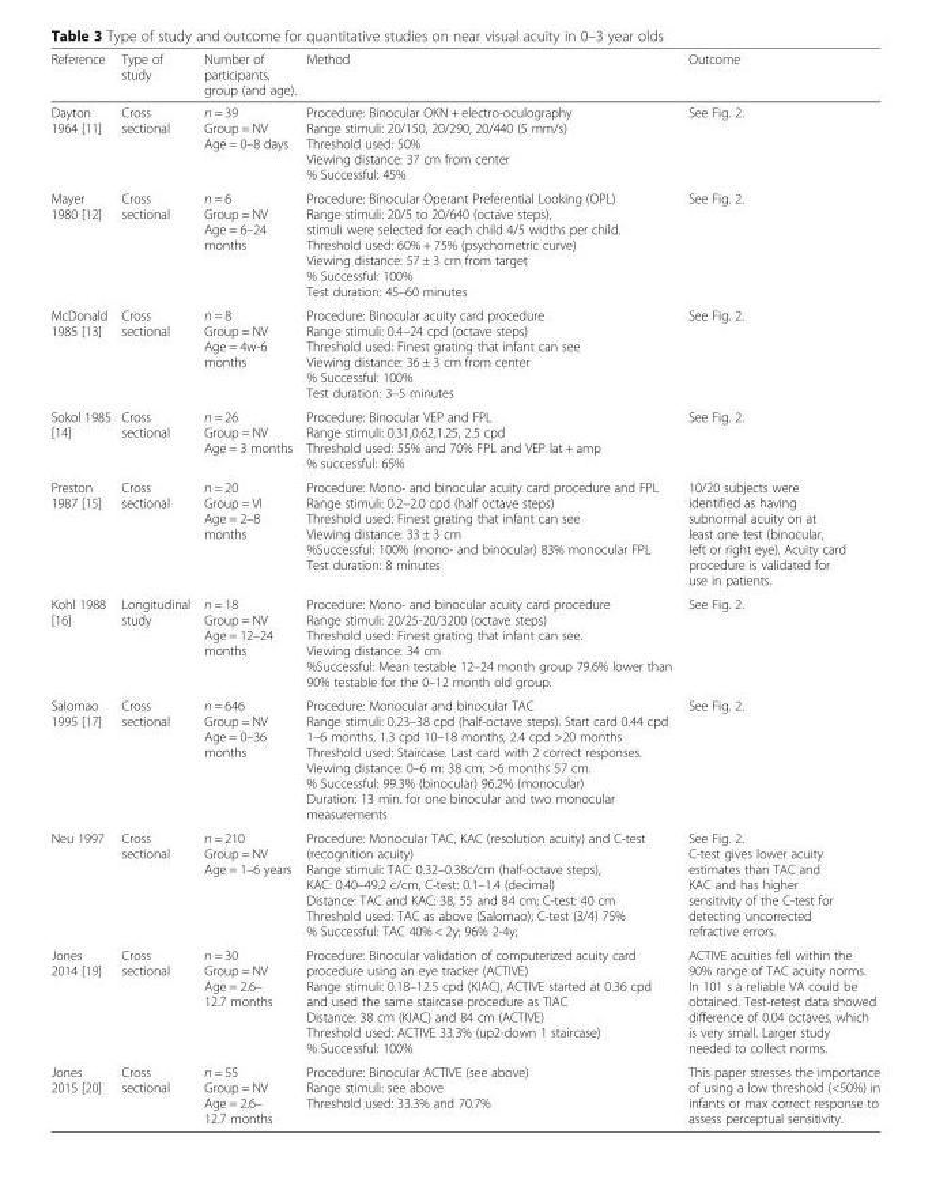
<table><thead><tr><td>Reference</td><td>Type of study</td><td>Number of participants, group (and age).</td><td>Method</td><td>Outcome</td></tr></thead><tbody><tr><td>Dayton 1964 [11]</td><td>Cross sectional</td><td>n = 39 Group = NV Age = 0–8 days</td><td>Procedure: Binocular OKN + electro-oculography Range stimuli: 20/150, 20/290, 20/440 (5 mm/s) Threshold used: 50% Viewing distance: 37 cm from center % Successful: 45%</td><td>See Fig. 2.</td></tr><tr><td>Mayer 1980 [12]</td><td>Cross sectional</td><td>n = 6 Group = NV Age = 6–24 months</td><td>Procedure: Binocular Operant Preferential Looking (OPL) Range stimuli: 20/5 to 20/640 (octave steps), stimuli were selected for each child 4/5 widths per child. Threshold used: 60% + 75% (psychometric curve) Viewing distance: 57 ± 3 cm from target % Successful: 100% Test duration: 45–60 minutes</td><td>See Fig. 2.</td></tr><tr><td>McDonald 1985 [13]</td><td>Cross sectional</td><td>n = 8 Group = NV Age = 4w-6 months</td><td>Procedure: Binocular acuity card procedure Range stimuli: 0.4–24 cpd (octave steps) Threshold used: Finest grating that infant can see Viewing distance: 36 ± 3 cm from center % Successful: 100% Test duration: 3–5 minutes</td><td>See Fig. 2.</td></tr><tr><td>Sokol 1985 [14]</td><td>Cross sectional</td><td>n = 26 Group = NV Age = 3 months</td><td>Procedure: Binocular VEP and FPL Range stimuli: 0.31,0.62,1.25, 2.5 cpd Threshold used: 55% and 70% FPL and VEP lat + amp % successful: 65%</td><td>See Fig. 2.</td></tr><tr><td>Preston 1987 [15]</td><td>Cross sectional</td><td>n = 20 Group = VI Age = 2–8 months</td><td>Procedure: Mono- and binocular acuity card procedure and FPL Range stimuli: 0.2–2.0 cpd (half octave steps) Threshold used: Finest grating that infant can see Viewing distance: 33 ± 3 cm %Successful: 100% (mono- and binocular) 83% monocular FPL Test duration: 8 minutes</td><td>10/20 subjects were identified as having subnormal acuity on at least one test (binocular, left or right eye). Acuity card procedure is validated for use in patients.</td></tr><tr><td>Kohl 1988 [16]</td><td>Longitudinal study</td><td>n = 18 Group = NV Age = 12–24 months</td><td>Procedure: Mono- and binocular acuity card procedure Range stimuli: 20/25-20/3200 (octave steps) Threshold used: Finest grating that infant can see. Viewing distance: 34 cm %Successful: Mean testable 12–24 month group 79.6% lower than 90% testable for the 0–12 month old group.</td><td>See Fig. 2.</td></tr><tr><td>Salomao 1995 [17]</td><td>Cross sectional</td><td>n = 646 Group = NV Age = 0–36 months</td><td>Procedure: Monocular and binocular TAC Range stimuli: 0.23–38 cpd (half-octave steps). Start card 0.44 cpd 1–6 months, 1.3 cpd 10–18 months, 2.4 cpd &gt;20 months Threshold used: Staircase. Last card with 2 correct responses. Viewing distance: 0–6 m: 38 cm; &gt;6 months 57 cm. % Successful: 99.3% (binocular) 96.2% (monocular) Duration: 13 min. for one binocular and two monocular measurements</td><td>See Fig. 2.</td></tr><tr><td>Neu 1997</td><td>Cross sectional</td><td>n = 210 Group = NV Age = 1–6 years</td><td>Procedure: Monocular TAC, KAC (resolution acuity) and C-test (recognition acuity) Range stimuli: TAC: 0.32–0.38c/cm (half-octave steps), KAC: 0.40–49.2 c/cm, C-test: 0.1–1.4 (decimal) Distance: TAC and KAC: 38, 55 and 84 cm; C-test: 40 cm Threshold used: TAC as above (Salomao); C-test (3/4) 75% % Successful: TAC 40% &lt; 2y; 96% 2-4y;</td><td>See Fig. 2. C-test gives lower acuity estimates than TAC and KAC and has higher sensitivity of the C-test for detecting uncorrected refractive errors.</td></tr><tr><td>Jones 2014 [19]</td><td>Cross sectional</td><td>n = 30 Group = NV Age = 2.6– 12.7 months</td><td>Procedure: Binocular validation of computerized acuity card procedure using an eye tracker (ACTIVE) Range stimuli: 0.18–12.5 cpd (KIAC), ACTIVE started at 0.36 cpd and used the same staircase procedure as TIAC Distance: 38 cm (KIAC) and 84 cm (ACTIVE) Threshold used: ACTIVE 33.3% (up2-down 1 staircase) % Successful: 100%</td><td>ACTIVE acuities fell within the 90% range of TAC acuity norms. In 101 s a reliable VA could be obtained. Test-retest data showed difference of 0.04 octaves, which is very small. Larger study needed to collect norms.</td></tr><tr><td>Jones 2015 [20]</td><td>Cross sectional</td><td>n = 55 Group = NV Age = 2.6– 12.7 months</td><td>Procedure: Binocular ACTIVE (see above) Range stimuli: see above Threshold used: 33.3% and 70.7%</td><td>This paper stresses the importance of using a low threshold (&lt;50%) in infants or max correct response to assess perceptual sensitivity.</td></tr></tbody></table>